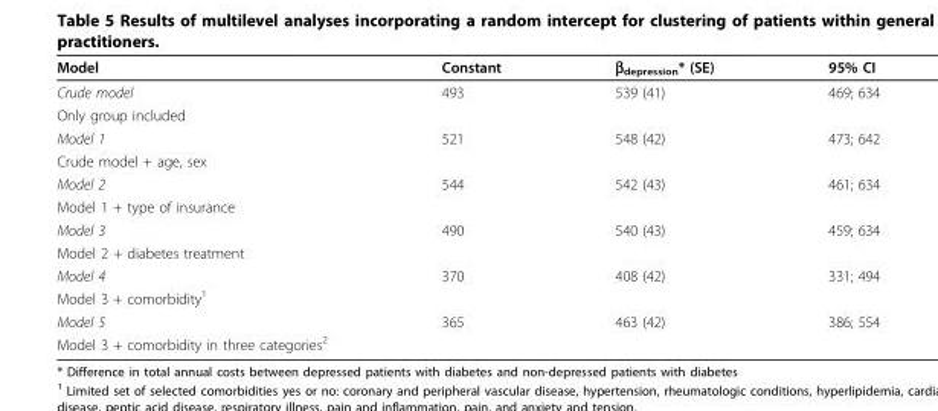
<table><thead><tr><td>Model</td><td>Constant</td><td>β<sub>depression</sub>* (SE)</td><td>95% CI</td></tr></thead><tbody><tr><td>Crude model</td><td>493</td><td>539 (41)</td><td>469; 634</td></tr><tr><td colspan="4">Only group included</td></tr><tr><td>Model 1</td><td>521</td><td>548 (42)</td><td>473; 642</td></tr><tr><td colspan="4">Crude model + age, sex</td></tr><tr><td>Model 2</td><td>544</td><td>542 (43)</td><td>461; 634</td></tr><tr><td colspan="4">Model 1 + type of insurance</td></tr><tr><td>Model 3</td><td>490</td><td>540 (43)</td><td>459; 634</td></tr><tr><td colspan="4">Model 2 + diabetes treatment</td></tr><tr><td>Model 4</td><td>370</td><td>408 (42)</td><td>331; 494</td></tr><tr><td colspan="4">Model 3 + comorbidity<sup>1</sup></td></tr><tr><td>Model 5</td><td>365</td><td>463 (42)</td><td>386; 554</td></tr><tr><td>Model 3 + comorbidity in three categories<sup>2</sup></td><td></td><td></td><td></td></tr></tbody></table>